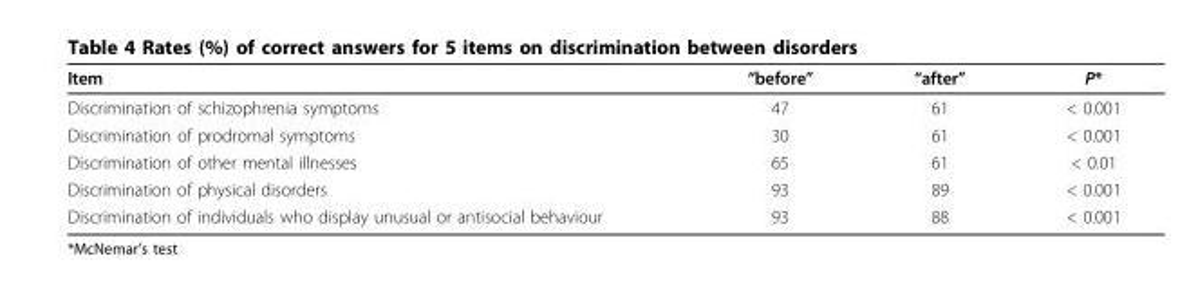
<table><thead><tr><td>Item</td><td>“before”</td><td>“after”</td><td>P*</td></tr></thead><tbody><tr><td>Discrimination of schizophrenia symptoms</td><td>47</td><td>61</td><td>&lt; 0.001</td></tr><tr><td>Discrimination of prodromal symptoms</td><td>30</td><td>61</td><td>&lt; 0.001</td></tr><tr><td>Discrimination of other mental illnesses</td><td>65</td><td>61</td><td>&lt; 0.01</td></tr><tr><td>Discrimination of physical disorders</td><td>93</td><td>89</td><td>&lt; 0.001</td></tr><tr><td>Discrimination of individuals who display unusual or antisocial behaviour</td><td>93</td><td>88</td><td>&lt; 0.001</td></tr></tbody></table>